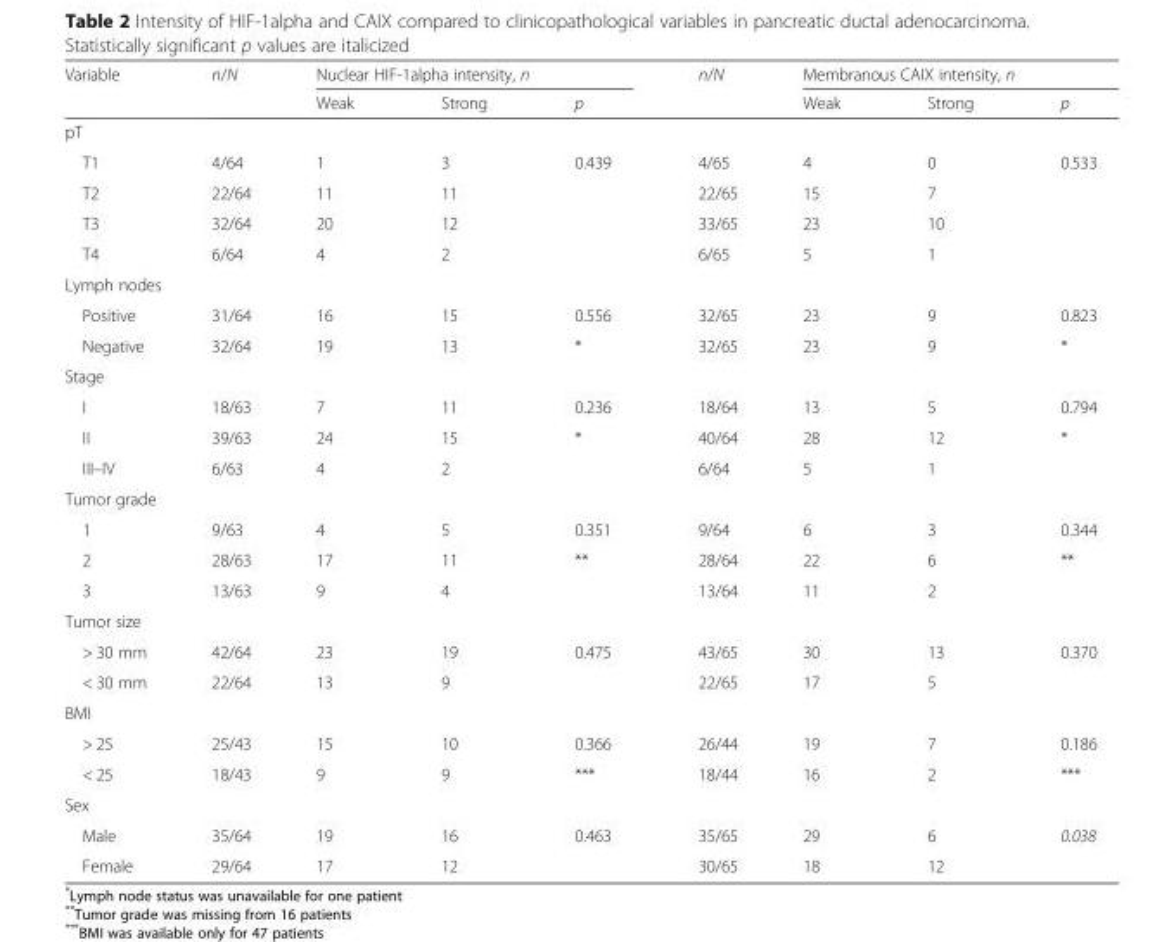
<table><thead><tr><td rowspan="2">Variable</td><td rowspan="2">n/N</td><td colspan="3">Nuclear HIF-1alpha intensity, n</td><td rowspan="2">n/N</td><td colspan="3">Membranous CAIX intensity, n</td></tr><tr><td>Weak</td><td>Strong</td><td>p</td><td>Weak</td><td>Strong</td><td>p</td></tr></thead><tbody><tr><td colspan="9">pT</td></tr><tr><td>T1</td><td>4/64</td><td>1</td><td>3</td><td>0.439</td><td>4/65</td><td>4</td><td>0</td><td>0.533</td></tr><tr><td>T2</td><td>22/64</td><td>11</td><td>11</td><td></td><td>22/65</td><td>15</td><td>7</td><td></td></tr><tr><td>T3</td><td>32/64</td><td>20</td><td>12</td><td></td><td>33/65</td><td>23</td><td>10</td><td></td></tr><tr><td>T4</td><td>6/64</td><td>4</td><td>2</td><td></td><td>6/65</td><td>5</td><td>1</td><td></td></tr><tr><td colspan="9">Lymph nodes</td></tr><tr><td>Positive</td><td>31/64</td><td>16</td><td>15</td><td>0.556</td><td>32/65</td><td>23</td><td>9</td><td>0.823</td></tr><tr><td>Negative</td><td>32/64</td><td>19</td><td>13</td><td>*</td><td>32/65</td><td>23</td><td>9</td><td>*</td></tr><tr><td colspan="9">Stage</td></tr><tr><td>I</td><td>18/63</td><td>7</td><td>11</td><td>0.236</td><td>18/64</td><td>13</td><td>5</td><td>0.794</td></tr><tr><td>II</td><td>39/63</td><td>24</td><td>15</td><td>*</td><td>40/64</td><td>28</td><td>12</td><td>*</td></tr><tr><td>III–IV</td><td>6/63</td><td>4</td><td>2</td><td></td><td>6/64</td><td>5</td><td>1</td><td></td></tr><tr><td colspan="9">Tumor grade</td></tr><tr><td>1</td><td>9/63</td><td>4</td><td>5</td><td>0.351</td><td>9/64</td><td>6</td><td>3</td><td>0.344</td></tr><tr><td>2</td><td>28/63</td><td>17</td><td>11</td><td>**</td><td>28/64</td><td>22</td><td>6</td><td>**</td></tr><tr><td>3</td><td>13/63</td><td>9</td><td>4</td><td></td><td>13/64</td><td>11</td><td>2</td><td></td></tr><tr><td colspan="9">Tumor size</td></tr><tr><td>&gt; 30 mm</td><td>42/64</td><td>23</td><td>19</td><td>0.475</td><td>43/65</td><td>30</td><td>13</td><td>0.370</td></tr><tr><td>&lt; 30 mm</td><td>22/64</td><td>13</td><td>9</td><td></td><td>22/65</td><td>17</td><td>5</td><td></td></tr><tr><td colspan="9">BMI</td></tr><tr><td>&gt; 25</td><td>25/43</td><td>15</td><td>10</td><td>0.366</td><td>26/44</td><td>19</td><td>7</td><td>0.186</td></tr><tr><td>&lt; 25</td><td>18/43</td><td>9</td><td>9</td><td>***</td><td>18/44</td><td>16</td><td>2</td><td>***</td></tr><tr><td colspan="9">Sex</td></tr><tr><td>Male</td><td>35/64</td><td>19</td><td>16</td><td>0.463</td><td>35/65</td><td>29</td><td>6</td><td>0.038</td></tr><tr><td>Female</td><td>29/64</td><td>17</td><td>12</td><td></td><td>30/65</td><td>18</td><td>12</td><td></td></tr></tbody></table>